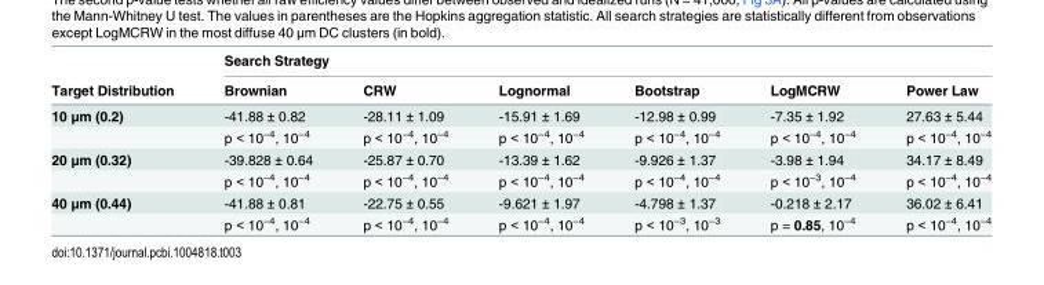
<table><thead><tr><td rowspan="2">Target Distribution</td><td colspan="6">Search Strategy</td></tr><tr><td>Brownian</td><td>CRW</td><td>Lognormal</td><td>Bootstrap</td><td>LogMCRW</td><td>Power Law</td></tr></thead><tbody><tr><td rowspan="2">10 μm (0.2)</td><td>-41.88 ± 0.82</td><td>-28.11 ± 1.09</td><td>-15.91 ± 1.69</td><td>-12.98 ± 0.99</td><td>-7.35 ± 1.92</td><td>27.63 ± 5.44</td></tr><tr><td>p &lt; 10<sup>−4</sup>, 10<sup>−4</sup></td><td>p &lt; 10<sup>−4</sup>, 10<sup>−4</sup></td><td>p &lt; 10<sup>−4</sup>, 10<sup>−4</sup></td><td>p &lt; 10<sup>−4</sup>, 10<sup>−4</sup></td><td>p &lt; 10<sup>−4</sup>, 10<sup>−4</sup></td><td>p &lt; 10<sup>−4</sup>, 10<sup>−4</sup></td></tr><tr><td rowspan="2">20 μm (0.32)</td><td>-39.828 ± 0.64</td><td>-25.87 ± 0.70</td><td>-13.39 ± 1.62</td><td>-9.926 ± 1.37</td><td>-3.98 ± 1.94</td><td>34.17 ± 8.49</td></tr><tr><td>p &lt; 10<sup>−4</sup>, 10<sup>−4</sup></td><td>p &lt; 10<sup>−4</sup>, 10<sup>−4</sup></td><td>p &lt; 10<sup>−4</sup>, 10<sup>−4</sup></td><td>p &lt; 10<sup>−4</sup>, 10<sup>−4</sup></td><td>p &lt; 10<sup>−3</sup>, 10<sup>−4</sup></td><td>p &lt; 10<sup>−4</sup>, 10<sup>−4</sup></td></tr><tr><td rowspan="2">40 μm (0.44)</td><td>-41.88 ± 0.81</td><td>-22.75 ± 0.55</td><td>-9.621 ± 1.97</td><td>-4.798 ± 1.37</td><td>-0.218 ± 2.17</td><td>36.02 ± 6.41</td></tr><tr><td>p &lt; 10<sup>−4</sup>, 10<sup>−4</sup></td><td>p &lt; 10<sup>−4</sup>, 10<sup>−4</sup></td><td>p &lt; 10<sup>−4</sup>, 10<sup>−4</sup></td><td>p &lt; 10<sup>−3</sup>, 10<sup>−3</sup></td><td>p = 0.85, 10<sup>−4</sup></td><td>p &lt; 10<sup>−4</sup>, 10<sup>−4</sup></td></tr></tbody></table>